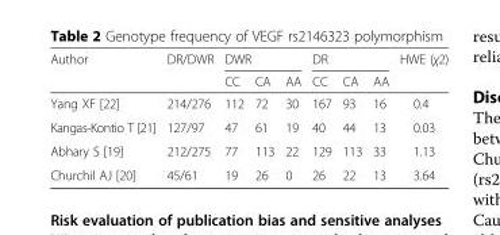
<table><thead><tr><td rowspan="2">Author</td><td rowspan="2">DR/DWR</td><td colspan="3">DWR</td><td colspan="3">DR</td><td rowspan="2">HWE (χ2)</td></tr><tr><td>CC</td><td>CA</td><td>AA</td><td>CC</td><td>CA</td><td>AA</td></tr></thead><tbody><tr><td>Yang XF [22]</td><td>214/276</td><td>112</td><td>72</td><td>30</td><td>167</td><td>93</td><td>16</td><td>0.4</td></tr><tr><td>Kangas-Kontio T [21]</td><td>127/97</td><td>47</td><td>61</td><td>19</td><td>40</td><td>44</td><td>13</td><td>0.03</td></tr><tr><td>Abhary S [19]</td><td>212/275</td><td>77</td><td>113</td><td>22</td><td>129</td><td>113</td><td>33</td><td>1.13</td></tr><tr><td>Churchil AJ [20]</td><td>45/61</td><td>19</td><td>26</td><td>0</td><td>26</td><td>22</td><td>13</td><td>3.64</td></tr></tbody></table>